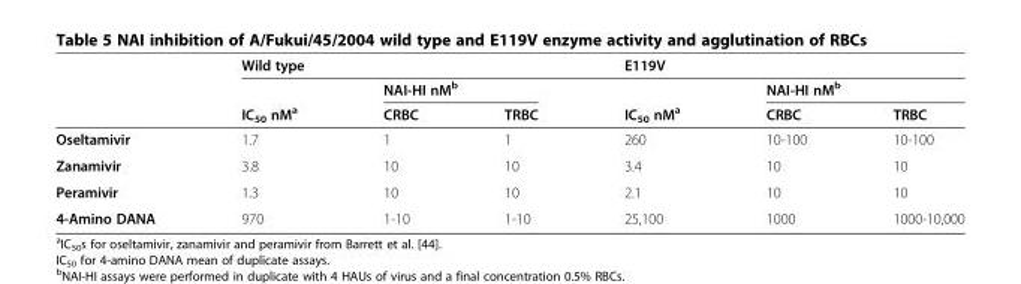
<table><thead><tr><td rowspan="3"></td><td colspan="3">Wild type</td><td colspan="3">E119V</td></tr><tr><td rowspan="2">IC<sub>50</sub> nM<sup>a</sup></td><td colspan="2">NAI-HI nM<sup>b</sup></td><td rowspan="2">IC<sub>50</sub> nM<sup>a</sup></td><td colspan="2">NAI-HI nM<sup>b</sup></td></tr><tr><td>CRBC</td><td>TRBC</td><td>CRBC</td><td>TRBC</td></tr></thead><tbody><tr><td>Oseltamivir</td><td>1.7</td><td>1</td><td>1</td><td>260</td><td>10-100</td><td>10-100</td></tr><tr><td>Zanamivir</td><td>3.8</td><td>10</td><td>10</td><td>3.4</td><td>10</td><td>10</td></tr><tr><td>Peramivir</td><td>1.3</td><td>10</td><td>10</td><td>2.1</td><td>10</td><td>10</td></tr><tr><td>4-Amino DANA</td><td>970</td><td>1-10</td><td>1-10</td><td>25,100</td><td>1000</td><td>1000-10,000</td></tr></tbody></table>